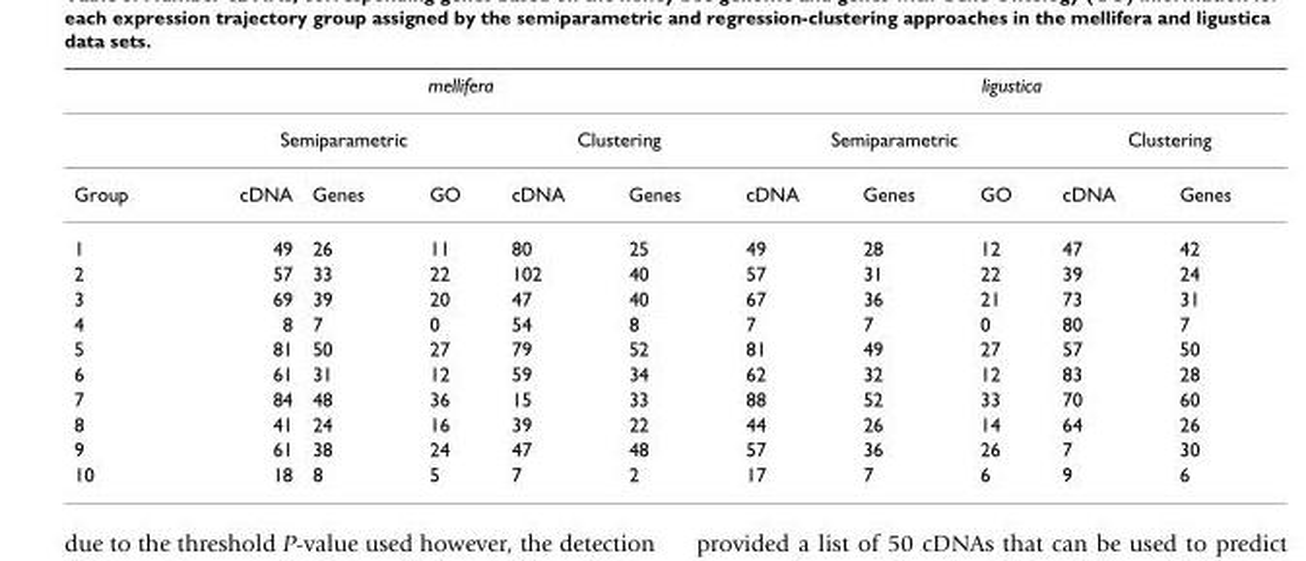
<table><thead><tr><td rowspan="3">Group</td><td colspan="5">mellifera</td><td colspan="5">ligustica</td></tr><tr><td colspan="3">Semiparametric</td><td colspan="2">Clustering</td><td colspan="3">Semiparametric</td><td colspan="2">Clustering</td></tr><tr><td>cDNA</td><td>Genes</td><td>GO</td><td>cDNA</td><td>Genes</td><td>cDNA</td><td>Genes</td><td>GO</td><td>cDNA</td><td>Genes</td></tr></thead><tbody><tr><td>1</td><td>49</td><td>26</td><td>11</td><td>80</td><td>25</td><td>49</td><td>28</td><td>12</td><td>47</td><td>42</td></tr><tr><td>2</td><td>57</td><td>33</td><td>22</td><td>102</td><td>40</td><td>57</td><td>31</td><td>22</td><td>39</td><td>24</td></tr><tr><td>3</td><td>69</td><td>39</td><td>20</td><td>47</td><td>40</td><td>67</td><td>36</td><td>21</td><td>73</td><td>31</td></tr><tr><td>4</td><td>8</td><td>7</td><td>0</td><td>54</td><td>8</td><td>7</td><td>7</td><td>0</td><td>80</td><td>7</td></tr><tr><td>5</td><td>81</td><td>50</td><td>27</td><td>79</td><td>52</td><td>81</td><td>49</td><td>27</td><td>57</td><td>50</td></tr><tr><td>6</td><td>61</td><td>31</td><td>12</td><td>59</td><td>34</td><td>62</td><td>32</td><td>12</td><td>83</td><td>28</td></tr><tr><td>7</td><td>84</td><td>48</td><td>36</td><td>15</td><td>33</td><td>88</td><td>52</td><td>33</td><td>70</td><td>60</td></tr><tr><td>8</td><td>41</td><td>24</td><td>16</td><td>39</td><td>22</td><td>44</td><td>26</td><td>14</td><td>64</td><td>26</td></tr><tr><td>9</td><td>61</td><td>38</td><td>24</td><td>47</td><td>48</td><td>57</td><td>36</td><td>26</td><td>7</td><td>30</td></tr><tr><td>10</td><td>18</td><td>8</td><td>5</td><td>7</td><td>2</td><td>17</td><td>7</td><td>6</td><td>9</td><td>6</td></tr></tbody></table>